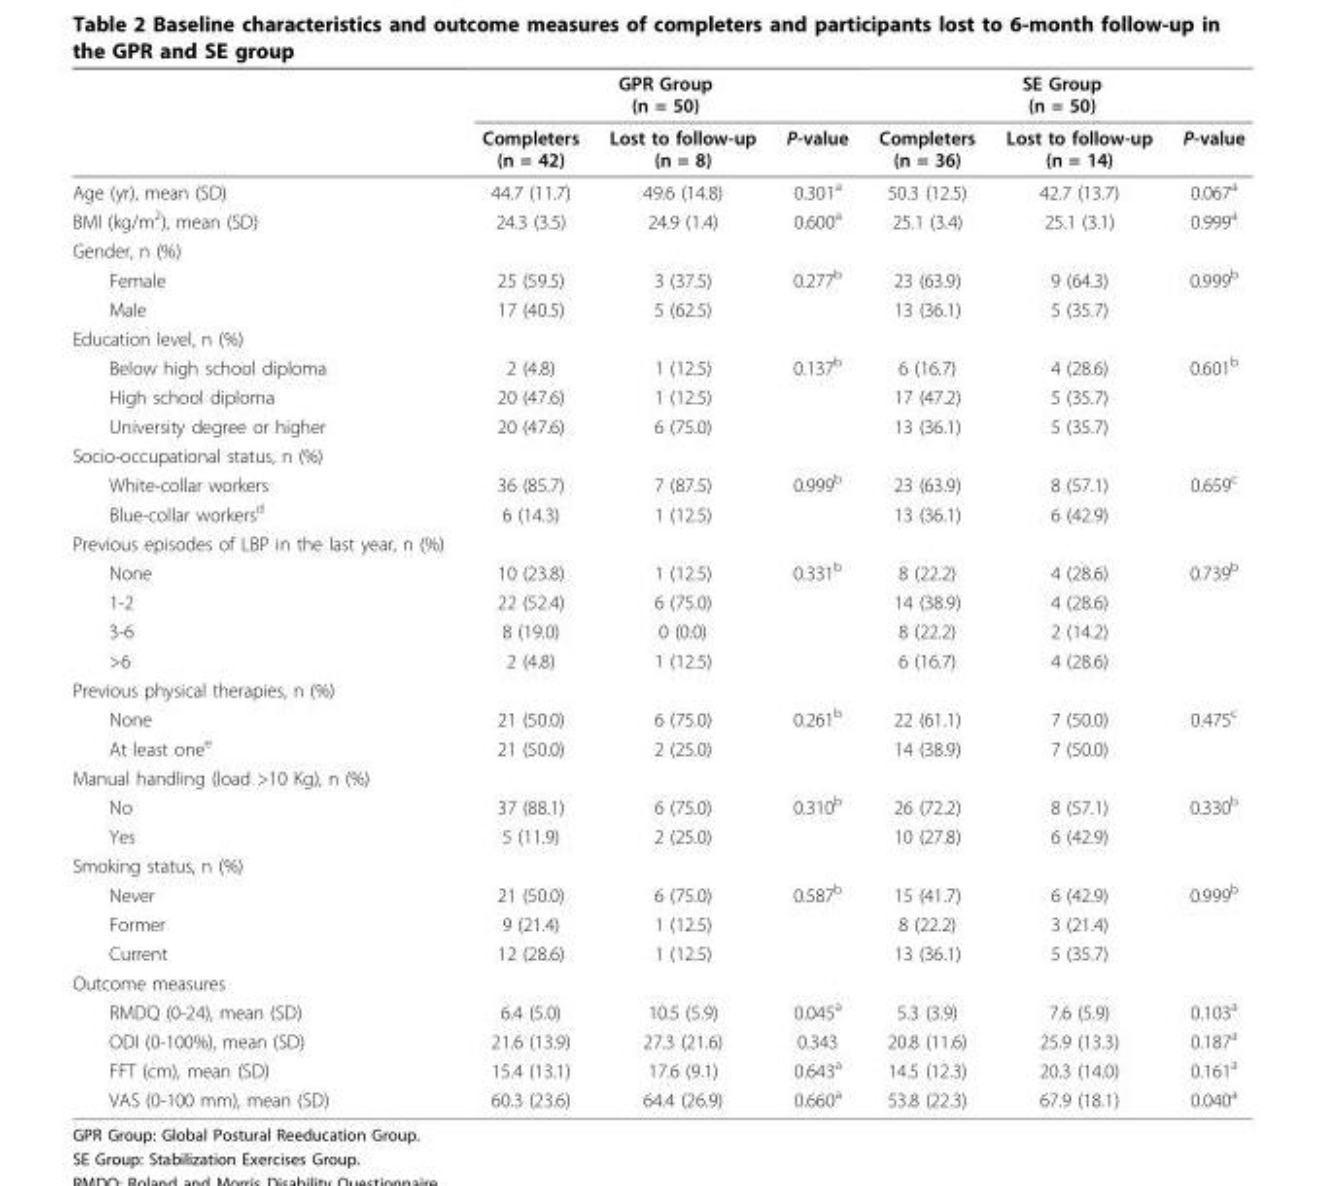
<table><thead><tr><td rowspan="2"></td><td colspan="3">GPR Group (n = 50)</td><td colspan="3">SE Group (n = 50)</td></tr><tr><td>Completers (n = 42)</td><td>Lost to follow-up (n = 8)</td><td>P-value</td><td>Completers (n = 36)</td><td>Lost to follow-up (n = 14)</td><td>P-value</td></tr></thead><tbody><tr><td>Age (yr), mean (SD)</td><td>44.7 (11.7)</td><td>49.6 (14.8)</td><td>0.301<sup>a</sup></td><td>50.3 (12.5)</td><td>42.7 (13.7)</td><td>0.067<sup>a</sup></td></tr><tr><td>BMI (kg/m<sup>2</sup>), mean (SD)</td><td>24.3 (3.5)</td><td>24.9 (1.4)</td><td>0.600<sup>a</sup></td><td>25.1 (3.4)</td><td>25.1 (3.1)</td><td>0.999<sup>a</sup></td></tr><tr><td colspan="7">Gender, n (%)</td></tr><tr><td>Female</td><td>25 (59.5)</td><td>3 (37.5)</td><td>0.277<sup>b</sup></td><td>23 (63.9)</td><td>9 (64.3)</td><td>0.999<sup>b</sup></td></tr><tr><td>Male</td><td>17 (40.5)</td><td>5 (62.5)</td><td></td><td>13 (36.1)</td><td>5 (35.7)</td><td></td></tr><tr><td colspan="7">Education level, n (%)</td></tr><tr><td>Below high school diploma</td><td>2 (4.8)</td><td>1 (12.5)</td><td>0.137<sup>b</sup></td><td>6 (16.7)</td><td>4 (28.6)</td><td>0.601<sup>b</sup></td></tr><tr><td>High school diploma</td><td>20 (47.6)</td><td>1 (12.5)</td><td></td><td>17 (47.2)</td><td>5 (35.7)</td><td></td></tr><tr><td>University degree or higher</td><td>20 (47.6)</td><td>6 (75.0)</td><td></td><td>13 (36.1)</td><td>5 (35.7)</td><td></td></tr><tr><td colspan="7">Socio-occupational status, n (%)</td></tr><tr><td>White-collar workers</td><td>36 (85.7)</td><td>7 (87.5)</td><td>0.999<sup>b</sup></td><td>23 (63.9)</td><td>8 (57.1)</td><td>0.659<sup>c</sup></td></tr><tr><td>Blue-collar workers<sup>d</sup></td><td>6 (14.3)</td><td>1 (12.5)</td><td></td><td>13 (36.1)</td><td>6 (42.9)</td><td></td></tr><tr><td colspan="7">Previous episodes of LBP in the last year, n (%)</td></tr><tr><td>None</td><td>10 (23.8)</td><td>1 (12.5)</td><td>0.331<sup>b</sup></td><td>8 (22.2)</td><td>4 (28.6)</td><td>0.739<sup>b</sup></td></tr><tr><td>1-2</td><td>22 (52.4)</td><td>6 (75.0)</td><td></td><td>14 (38.9)</td><td>4 (28.6)</td><td></td></tr><tr><td>3-6</td><td>8 (19.0)</td><td>0 (0.0)</td><td></td><td>8 (22.2)</td><td>2 (14.2)</td><td></td></tr><tr><td>&gt;6</td><td>2 (4.8)</td><td>1 (12.5)</td><td></td><td>6 (16.7)</td><td>4 (28.6)</td><td></td></tr><tr><td colspan="7">Previous physical therapies, n (%)</td></tr><tr><td>None</td><td>21 (50.0)</td><td>6 (75.0)</td><td>0.261<sup>b</sup></td><td>22 (61.1)</td><td>7 (50.0)</td><td>0.475<sup>c</sup></td></tr><tr><td>At least one<sup>e</sup></td><td>21 (50.0)</td><td>2 (25.0)</td><td></td><td>14 (38.9)</td><td>7 (50.0)</td><td></td></tr><tr><td colspan="7">Manual handling (load &gt;10 Kg), n (%)</td></tr><tr><td>No</td><td>37 (88.1)</td><td>6 (75.0)</td><td>0.310<sup>b</sup></td><td>26 (72.2)</td><td>8 (57.1)</td><td>0.330<sup>b</sup></td></tr><tr><td>Yes</td><td>5 (11.9)</td><td>2 (25.0)</td><td></td><td>10 (27.8)</td><td>6 (42.9)</td><td></td></tr><tr><td colspan="7">Smoking status, n (%)</td></tr><tr><td>Never</td><td>21 (50.0)</td><td>6 (75.0)</td><td>0.587<sup>b</sup></td><td>15 (41.7)</td><td>6 (42.9)</td><td>0.999<sup>b</sup></td></tr><tr><td>Former</td><td>9 (21.4)</td><td>1 (12.5)</td><td></td><td>8 (22.2)</td><td>3 (21.4)</td><td></td></tr><tr><td>Current</td><td>12 (28.6)</td><td>1 (12.5)</td><td></td><td>13 (36.1)</td><td>5 (35.7)</td><td></td></tr><tr><td colspan="7">Outcome measures</td></tr><tr><td>RMDQ (0-24), mean (SD)</td><td>6.4 (5.0)</td><td>10.5 (5.9)</td><td>0.045<sup>a</sup></td><td>5.3 (3.9)</td><td>7.6 (5.9)</td><td>0.103<sup>a</sup></td></tr><tr><td>ODI (0-100%), mean (SD)</td><td>21.6 (13.9)</td><td>27.3 (21.6)</td><td>0.343</td><td>20.8 (11.6)</td><td>25.9 (13.3)</td><td>0.187<sup>a</sup></td></tr><tr><td>FFT (cm), mean (SD)</td><td>15.4 (13.1)</td><td>17.6 (9.1)</td><td>0.643<sup>a</sup></td><td>14.5 (12.3)</td><td>20.3 (14.0)</td><td>0.161<sup>a</sup></td></tr><tr><td>VAS (0-100 mm), mean (SD)</td><td>60.3 (23.6)</td><td>64.4 (26.9)</td><td>0.660<sup>a</sup></td><td>53.8 (22.3)</td><td>67.9 (18.1)</td><td>0.040<sup>a</sup></td></tr></tbody></table>